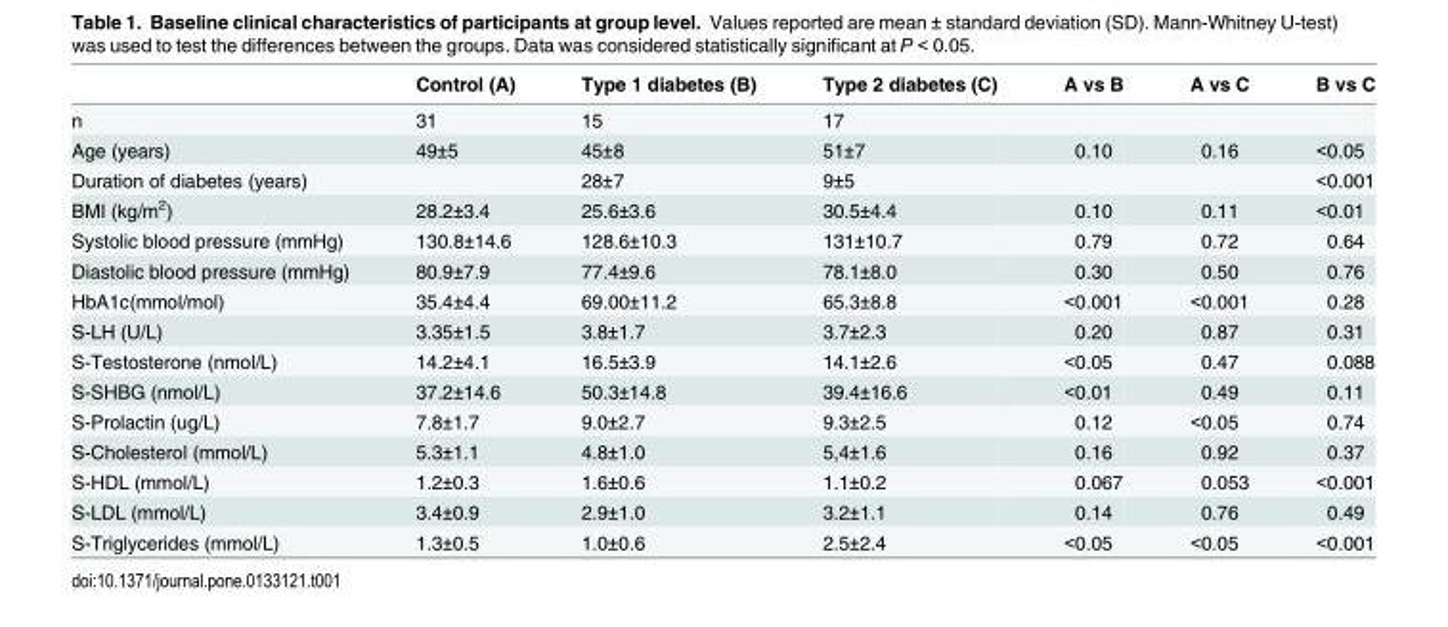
<table><thead><tr><td></td><td>Control (A)</td><td>Type 1 diabetes (B)</td><td>Type 2 diabetes (C)</td><td>A vs B</td><td>A vs C</td><td>B vs C</td></tr></thead><tbody><tr><td>n</td><td>31</td><td>15</td><td>17</td><td></td><td></td><td></td></tr><tr><td>Age (years)</td><td>49±5</td><td>45±8</td><td>51±7</td><td>0.10</td><td>0.16</td><td>&lt;0.05</td></tr><tr><td>Duration of diabetes (years)</td><td></td><td>28±7</td><td>9±5</td><td></td><td></td><td>&lt;0.001</td></tr><tr><td>BMI (kg/m<sup>2</sup>)</td><td>28.2±3.4</td><td>25.6±3.6</td><td>30.5±4.4</td><td>0.10</td><td>0.11</td><td>&lt;0.01</td></tr><tr><td>Systolic blood pressure (mmHg)</td><td>130.8±14.6</td><td>128.6±10.3</td><td>131±10.7</td><td>0.79</td><td>0.72</td><td>0.64</td></tr><tr><td>Diastolic blood pressure (mmHg)</td><td>80.9±7.9</td><td>77.4±9.6</td><td>78.1±8.0</td><td>0.30</td><td>0.50</td><td>0.76</td></tr><tr><td>HbA1c(mmol/mol)</td><td>35.4±4.4</td><td>69.00±11.2</td><td>65.3±8.8</td><td>&lt;0.001</td><td>&lt;0.001</td><td>0.28</td></tr><tr><td>S-LH (U/L)</td><td>3.35±1.5</td><td>3.8±1.7</td><td>3.7±2.3</td><td>0.20</td><td>0.87</td><td>0.31</td></tr><tr><td>S-Testosterone (nmol/L)</td><td>14.2±4.1</td><td>16.5±3.9</td><td>14.1±2.6</td><td>&lt;0.05</td><td>0.47</td><td>0.088</td></tr><tr><td>S-SHBG (nmol/L)</td><td>37.2±14.6</td><td>50.3±14.8</td><td>39.4±16.6</td><td>&lt;0.01</td><td>0.49</td><td>0.11</td></tr><tr><td>S-Prolactin (ug/L)</td><td>7.8±1.7</td><td>9.0±2.7</td><td>9.3±2.5</td><td>0.12</td><td>&lt;0.05</td><td>0.74</td></tr><tr><td>S-Cholesterol (mmol/L)</td><td>5.3±1.1</td><td>4.8±1.0</td><td>5,4±1.6</td><td>0.16</td><td>0.92</td><td>0.37</td></tr><tr><td>S-HDL (mmol/L)</td><td>1.2±0.3</td><td>1.6±0.6</td><td>1.1±0.2</td><td>0.067</td><td>0.053</td><td>&lt;0.001</td></tr><tr><td>S-LDL (mmol/L)</td><td>3.4±0.9</td><td>2.9±1.0</td><td>3.2±1.1</td><td>0.14</td><td>0.76</td><td>0.49</td></tr><tr><td>S-Triglycerides (mmol/L)</td><td>1.3±0.5</td><td>1.0±0.6</td><td>2.5±2.4</td><td>&lt;0.05</td><td>&lt;0.05</td><td>&lt;0.001</td></tr></tbody></table>